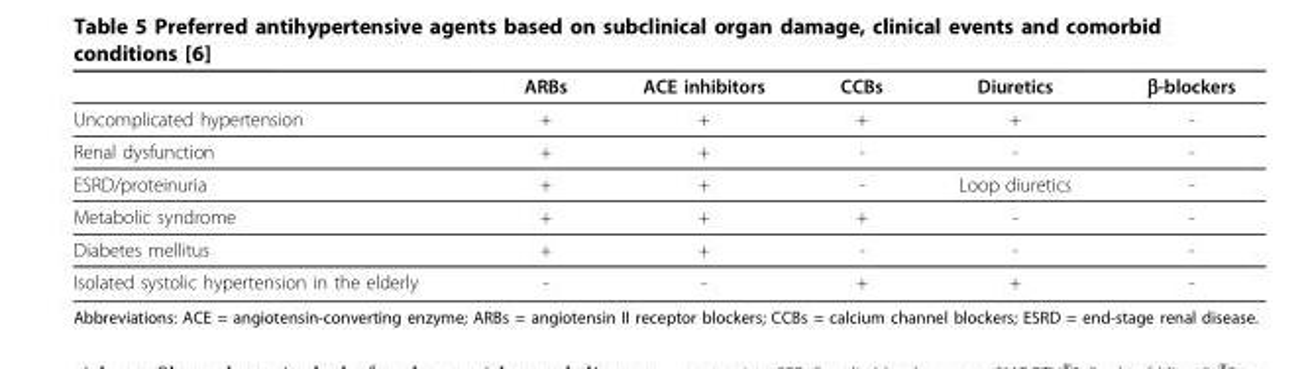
<table><thead><tr><td></td><td>ARBs</td><td>ACE inhibitors</td><td>CCBs</td><td>Diuretics</td><td>β-blockers</td></tr></thead><tbody><tr><td>Uncomplicated hypertension</td><td>+</td><td>+</td><td>+</td><td>+</td><td>-</td></tr><tr><td>Renal dysfunction</td><td>+</td><td>+</td><td>-</td><td>-</td><td>-</td></tr><tr><td>ESRD/proteinuria</td><td>+</td><td>+</td><td>-</td><td>Loop diuretics</td><td>-</td></tr><tr><td>Metabolic syndrome</td><td>+</td><td>+</td><td>+</td><td>-</td><td>-</td></tr><tr><td>Diabetes mellitus</td><td>+</td><td>+</td><td>-</td><td>-</td><td>-</td></tr><tr><td>Isolated systolic hypertension in the elderly</td><td>-</td><td>-</td><td>+</td><td>+</td><td>-</td></tr></tbody></table>